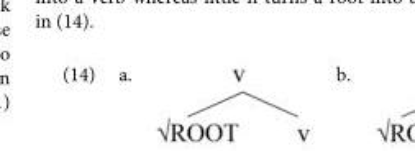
<table><tbody><tr><td>(14) a.</td><td>b.</td></tr></tbody></table>